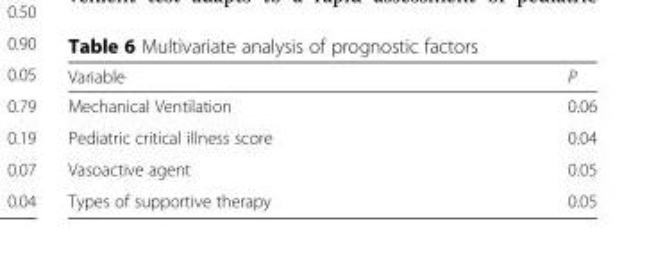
<table><thead><tr><td>Variable</td><td>P</td></tr></thead><tbody><tr><td>Mechanical Ventilation</td><td>0.06</td></tr><tr><td>Pediatric critical illness score</td><td>0.04</td></tr><tr><td>Vasoactive agent</td><td>0.05</td></tr><tr><td>Types of supportive therapy</td><td>0.05</td></tr></tbody></table>